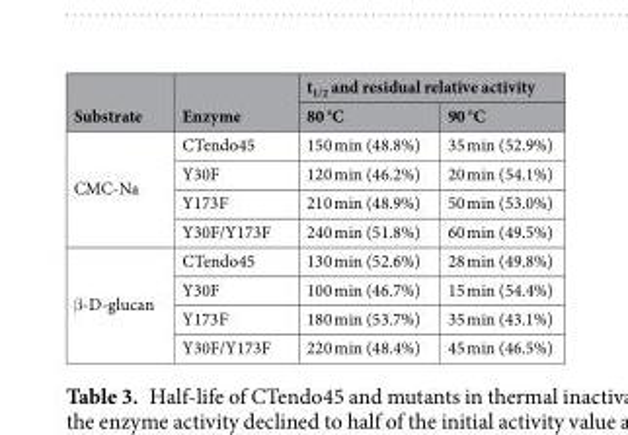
<table><thead><tr><td rowspan="2">Substrate</td><td rowspan="2">Enzyme</td><td colspan="2">t<sub>1/2</sub> and residual relative activity</td></tr><tr><td>80 °C</td><td>90 °C</td></tr></thead><tbody><tr><td rowspan="4">CMC-Na</td><td>CTendo45</td><td>150 min (48.8%)</td><td>35 min (52.9%)</td></tr><tr><td>Y30F</td><td>120 min (46.2%)</td><td>20 min (54.1%)</td></tr><tr><td>Y173F</td><td>210 min (48.9%)</td><td>50 min (53.0%)</td></tr><tr><td>Y30F/Y173F</td><td>240 min (51.8%)</td><td>60 min (49.5%)</td></tr><tr><td rowspan="4">β-D-glucan</td><td>CTendo45</td><td>130 min (52.6%)</td><td>28 min (49.8%)</td></tr><tr><td>Y30F</td><td>100 min (46.7%)</td><td>15 min (54.4%)</td></tr><tr><td>Y173F</td><td>180 min (53.7%)</td><td>35 min (43.1%)</td></tr><tr><td>Y30F/Y173F</td><td>220 min (48.4%)</td><td>45 min (46.5%)</td></tr></tbody></table>